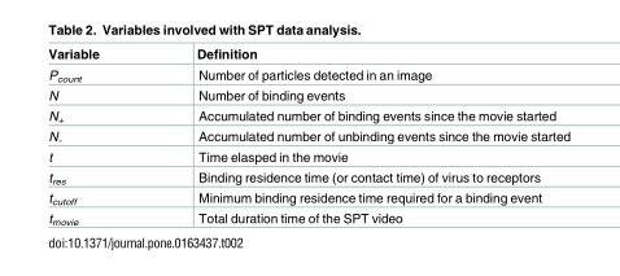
<table><thead><tr><td>Variable</td><td>Definition</td></tr></thead><tbody><tr><td>P<sub>count</sub></td><td>Number of particles detected in an image</td></tr><tr><td>N</td><td>Number of binding events</td></tr><tr><td>N<sub>+</sub></td><td>Accumulated number of binding events since the movie started</td></tr><tr><td>N<sub>-</sub></td><td>Accumulated number of unbinding events since the movie started</td></tr><tr><td>t</td><td>Time elasped in the movie</td></tr><tr><td>t<sub>res</sub></td><td>Binding residence time (or contact time) of virus to receptors</td></tr><tr><td>t<sub>cutoff</sub></td><td>Minimum binding residence time required for a binding event</td></tr><tr><td>t<sub>movie</sub></td><td>Total duration time of the SPT video</td></tr></tbody></table>